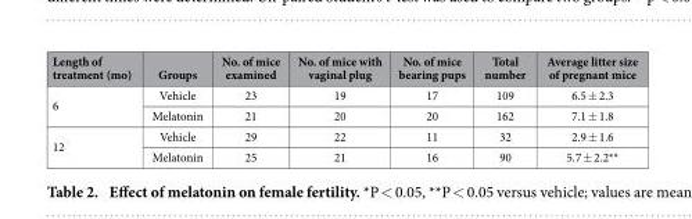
<table><thead><tr><td>Length of treatment (mo)</td><td>Groups</td><td>No. of mice examined</td><td>No. of mice with vaginal plug</td><td>No. of mice bearing pups</td><td>Total number</td><td>Average litter size of pregnant mice</td></tr></thead><tbody><tr><td rowspan="2">6</td><td>Vehicle</td><td>23</td><td>19</td><td>17</td><td>109</td><td>6.5 ± 2.3</td></tr><tr><td>Melatonin</td><td>21</td><td>20</td><td>20</td><td>162</td><td>7.1 ± 1.8</td></tr><tr><td rowspan="2">12</td><td>Vehicle</td><td>29</td><td>22</td><td>11</td><td>32</td><td>2.9 ± 1.6</td></tr><tr><td>Melatonin</td><td>25</td><td>21</td><td>16</td><td>90</td><td>5.7 ± 2.2**</td></tr></tbody></table>